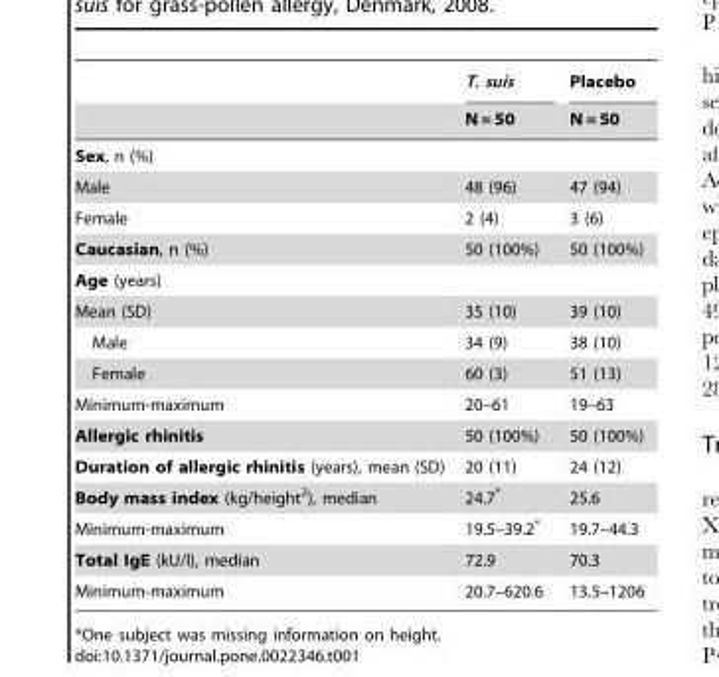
<table><thead><tr><td rowspan="2"></td><td rowspan="2">T. suis N = 50</td><td rowspan="2">Placebo N = 50</td></tr><tr></tr></thead><tbody><tr><td colspan="3">Sex, n (%)</td></tr><tr><td>Male</td><td>48 (96)</td><td>47 (94)</td></tr><tr><td>Female</td><td>2 (4)</td><td>3 (6)</td></tr><tr><td>Caucasian, n (%)</td><td>50 (100%)</td><td>50 (100%)</td></tr><tr><td colspan="3">Age (years)</td></tr><tr><td>Mean (SD)</td><td>35 (10)</td><td>39 (10)</td></tr><tr><td>Male</td><td>34 (9)</td><td>38 (10)</td></tr><tr><td>Female</td><td>60 (3)</td><td>51 (13)</td></tr><tr><td>Minimum-maximum</td><td>20–61</td><td>19–63</td></tr><tr><td>Allergic rhinitis</td><td>50 (100%)</td><td>50 (100%)</td></tr><tr><td>Duration of allergic rhinitis (years), mean (SD)</td><td>20 (11)</td><td>24 (12)</td></tr><tr><td>Body mass index (kg/height<sup>2</sup>), median</td><td>24.7*</td><td>25.6</td></tr><tr><td>Minimum-maximum</td><td>19.5–39.2*</td><td>19.7–44.3</td></tr><tr><td>Total IgE (kU/l), median</td><td>72.9</td><td>70.3</td></tr><tr><td>Minimum-maximum</td><td>20.7–620.6</td><td>13.5–1206</td></tr></tbody></table>